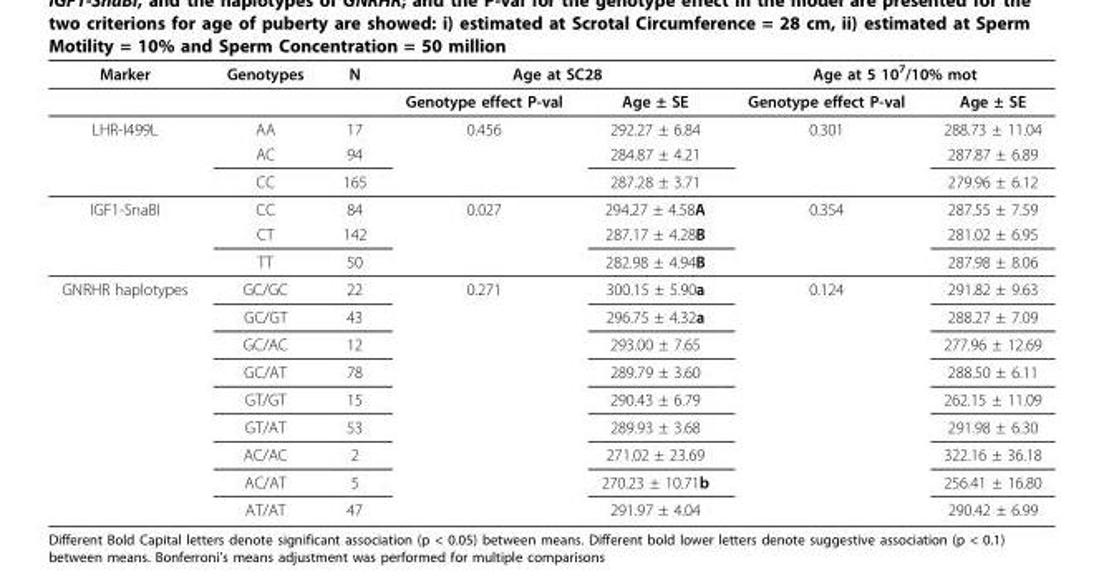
<table><thead><tr><td rowspan="2">Marker</td><td rowspan="2">Genotypes</td><td rowspan="2">N</td><td colspan="2">Age at SC28</td><td colspan="2">Age at 5 10<sup>7</sup>/10% mot</td></tr><tr><td>Genotype effect P-val</td><td>Age ± SE</td><td>Genotype effect P-val</td><td>Age ± SE</td></tr></thead><tbody><tr><td rowspan="3">LHR-I499L</td><td>AA</td><td>17</td><td>0.456</td><td>292.27 ± 6.84</td><td>0.301</td><td>288.73 ± 11.04</td></tr><tr><td>AC</td><td>94</td><td></td><td>284.87 ± 4.21</td><td></td><td>287.87 ± 6.89</td></tr><tr><td>CC</td><td>165</td><td></td><td>287.28 ± 3.71</td><td></td><td>279.96 ± 6.12</td></tr><tr><td rowspan="3">IGF1-SnaBI</td><td>CC</td><td>84</td><td>0.027</td><td>294.27 ± 4.58A</td><td>0.354</td><td>287.55 ± 7.59</td></tr><tr><td>CT</td><td>142</td><td></td><td>287.17 ± 4.28B</td><td></td><td>281.02 ± 6.95</td></tr><tr><td>TT</td><td>50</td><td></td><td>282.98 ± 4.94B</td><td></td><td>287.98 ± 8.06</td></tr><tr><td rowspan="9">GNRHR haplotypes</td><td>GC/GC</td><td>22</td><td>0.271</td><td>300.15 ± 5.90a</td><td>0.124</td><td>291.82 ± 9.63</td></tr><tr><td>GC/GT</td><td>43</td><td></td><td>296.75 ± 4.32a</td><td></td><td>288.27 ± 7.09</td></tr><tr><td>GC/AC</td><td>12</td><td></td><td>293.00 ± 7.65</td><td></td><td>277.96 ± 12.69</td></tr><tr><td>GC/AT</td><td>78</td><td></td><td>289.79 ± 3.60</td><td></td><td>288.50 ± 6.11</td></tr><tr><td>GT/GT</td><td>15</td><td></td><td>290.43 ± 6.79</td><td></td><td>262.15 ± 11.09</td></tr><tr><td>GT/AT</td><td>53</td><td></td><td>289.93 ± 3.68</td><td></td><td>291.98 ± 6.30</td></tr><tr><td>AC/AC</td><td>2</td><td></td><td>271.02 ± 23.69</td><td></td><td>322.16 ± 36.18</td></tr><tr><td>AC/AT</td><td>5</td><td></td><td>270.23 ± 10.71b</td><td></td><td>256.41 ± 16.80</td></tr><tr><td>AT/AT</td><td>47</td><td></td><td>291.97 ± 4.04</td><td></td><td>290.42 ± 6.99</td></tr></tbody></table>